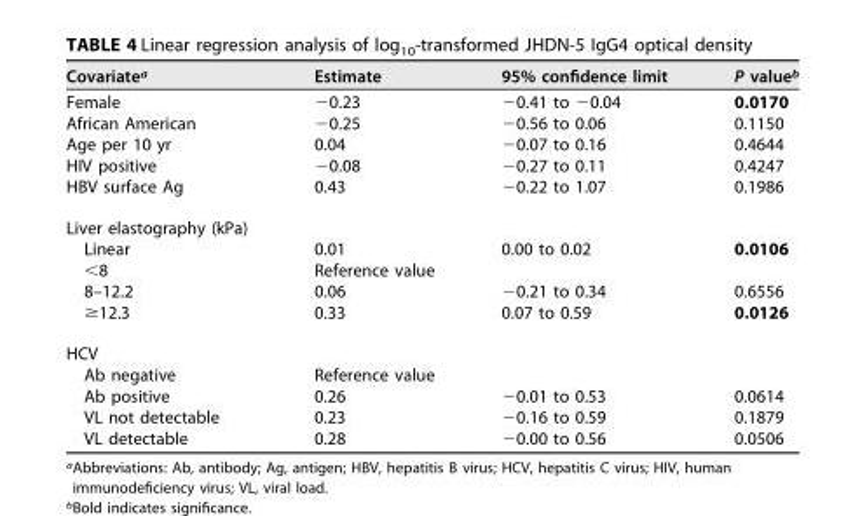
<table><thead><tr><td>Covariate<sup>a</sup></td><td>Estimate</td><td>95% confidence limit</td><td>P value<sup>b</sup></td></tr></thead><tbody><tr><td>Female</td><td>−0.23</td><td>−0.41 to −0.04</td><td>0.0170</td></tr><tr><td>African American</td><td>−0.25</td><td>−0.56 to 0.06</td><td>0.1150</td></tr><tr><td>Age per 10 yr</td><td>0.04</td><td>−0.07 to 0.16</td><td>0.4644</td></tr><tr><td>HIV positive</td><td>−0.08</td><td>−0.27 to 0.11</td><td>0.4247</td></tr><tr><td>HBV surface Ag</td><td>0.43</td><td>−0.22 to 1.07</td><td>0.1986</td></tr><tr><td colspan="4">Liver elastography (kPa)</td></tr><tr><td>Linear</td><td>0.01</td><td>0.00 to 0.02</td><td>0.0106</td></tr><tr><td>&lt;8</td><td>Reference value</td><td></td><td></td></tr><tr><td>8–12.2</td><td>0.06</td><td>−0.21 to 0.34</td><td>0.6556</td></tr><tr><td>≥12.3</td><td>0.33</td><td>0.07 to 0.59</td><td>0.0126</td></tr><tr><td colspan="4">HCV</td></tr><tr><td>Ab negative</td><td>Reference value</td><td></td><td></td></tr><tr><td>Ab positive</td><td>0.26</td><td>−0.01 to 0.53</td><td>0.0614</td></tr><tr><td>VL not detectable</td><td>0.23</td><td>−0.16 to 0.59</td><td>0.1879</td></tr><tr><td>VL detectable</td><td>0.28</td><td>−0.00 to 0.56</td><td>0.0506</td></tr></tbody></table>